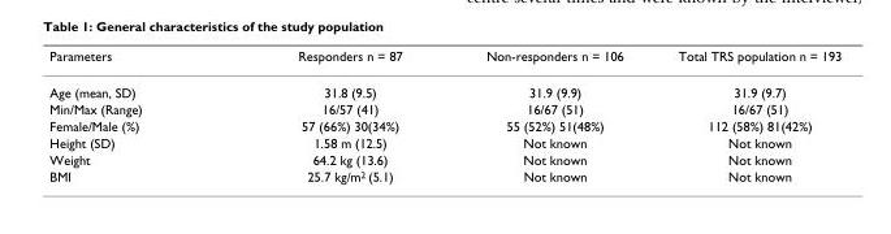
<table><thead><tr><td>Parameters</td><td>Responders n = 87</td><td>Non-responders n = 106</td><td>Total TRS population n = 193</td></tr></thead><tbody><tr><td>Age (mean, SD)</td><td>31.8 (9.5)</td><td>31.9 (9.9)</td><td>31.9 (9.7)</td></tr><tr><td>Min/Max (Range)</td><td>16/57 (41)</td><td>16/67 (51)</td><td>16/67 (51)</td></tr><tr><td>Female/Male (%)</td><td>57 (66%) 30(34%)</td><td>55 (52%) 51(48%)</td><td>112 (58%) 81(42%)</td></tr><tr><td>Height (SD)</td><td>1.58 m (12.5)</td><td>Not known</td><td>Not known</td></tr><tr><td>Weight</td><td>64.2 kg (13.6)</td><td>Not known</td><td>Not known</td></tr><tr><td>BMI</td><td>25.7 kg/m<sup>2</sup> (5.1)</td><td>Not known</td><td>Not known</td></tr></tbody></table>